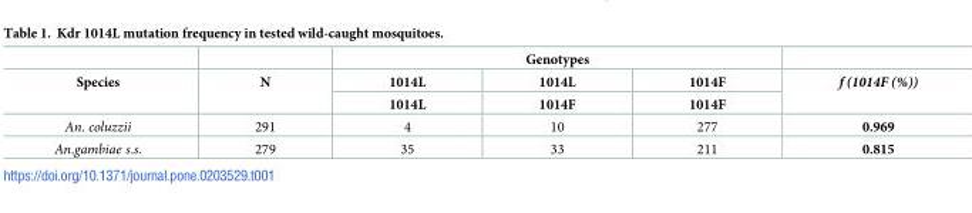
<table><thead><tr><td rowspan="3">Species</td><td rowspan="3">N</td><td colspan="3">Genotypes</td><td rowspan="3">f (1014F (%))</td></tr><tr><td rowspan="2">1014L 1014L</td><td rowspan="2">1014L 1014F</td><td rowspan="2">1014F 1014F</td></tr><tr></tr></thead><tbody><tr><td>An. coluzzii</td><td>291</td><td>4</td><td>10</td><td>277</td><td>0.969</td></tr><tr><td>An.gambiae s.s.</td><td>279</td><td>35</td><td>33</td><td>211</td><td>0.815</td></tr></tbody></table>